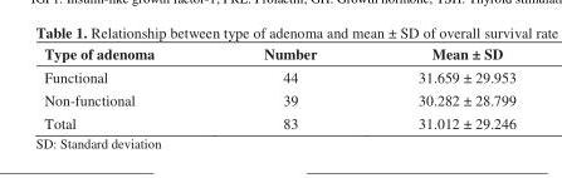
<table><thead><tr><td>Type of adenoma</td><td>Number</td><td>Mean ± SD</td></tr></thead><tbody><tr><td>Functional</td><td>44</td><td>31.659 ± 29.953</td></tr><tr><td>Non-functional</td><td>39</td><td>30.282 ± 28.799</td></tr><tr><td>Total</td><td>83</td><td>31.012 ± 29.246</td></tr></tbody></table>